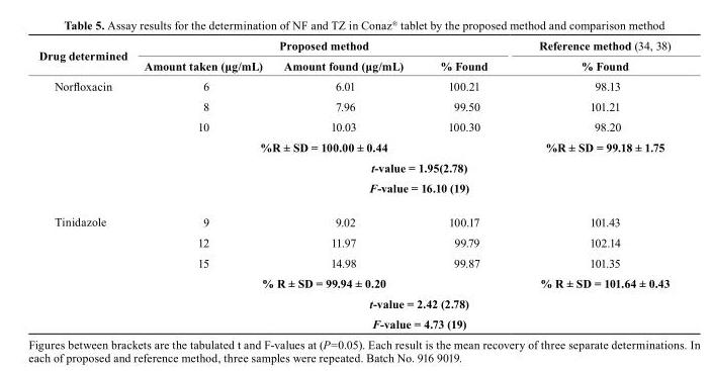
<table><thead><tr><td rowspan="2">Drug determined</td><td colspan="3">Proposed method</td><td rowspan="2">reference method (34, 38) % Found</td></tr><tr><td>Amount taken (μg/mL)</td><td>Amount found (μg/mL)</td><td>% Found</td></tr></thead><tbody><tr><td rowspan="6">Norfloxacin</td><td>6</td><td>6.01</td><td>100.21</td><td>98.13</td></tr><tr><td>8</td><td>7.96</td><td>99.50</td><td>101.21</td></tr><tr><td>10</td><td>10.03</td><td>100.30</td><td>98.20</td></tr><tr><td colspan="3">%R ± SD = 100.00 ± 0.44</td><td>%R ± SD = 99.18 ± 1.75</td></tr><tr><td colspan="4">t-value = 1.95(2.78)</td></tr><tr><td colspan="4">F-value = 16.10 (19)</td></tr><tr><td rowspan="6">Tinidazole</td><td>9</td><td>9.02</td><td>100.17</td><td>101.43</td></tr><tr><td>12</td><td>11.97</td><td>99.79</td><td>102.14</td></tr><tr><td>15</td><td>14.98</td><td>99.87</td><td>101.35</td></tr><tr><td colspan="3">% R ± SD = 99.94 ± 0.20</td><td>% R ± SD = 101.64 ± 0.43</td></tr><tr><td colspan="4">t-value = 2.42 (2.78)</td></tr><tr><td colspan="4">F-value = 4.73 (19)</td></tr></tbody></table>